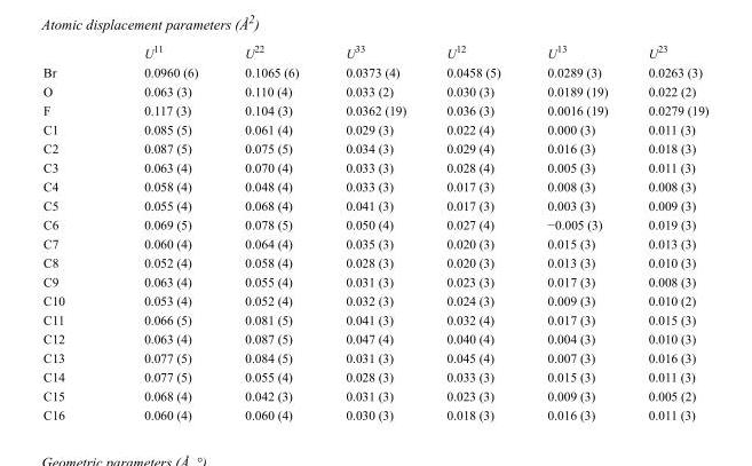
<table><thead><tr><td></td><td>U<sup>11</sup></td><td>U<sup>22</sup></td><td>U<sup>33</sup></td><td>U<sup>12</sup></td><td>U<sup>13</sup></td><td>U<sup>23</sup></td></tr></thead><tbody><tr><td>Br</td><td>0.0960 (6)</td><td>0.1065 (6)</td><td>0.0373 (4)</td><td>0.0458 (5)</td><td>0.0289 (3)</td><td>0.0263 (3)</td></tr><tr><td>O</td><td>0.063 (3)</td><td>0.110 (4)</td><td>0.033 (2)</td><td>0.030 (3)</td><td>0.0189 (19)</td><td>0.022 (2)</td></tr><tr><td>F</td><td>0.117 (3)</td><td>0.104 (3)</td><td>0.0362 (19)</td><td>0.036 (3)</td><td>0.0016 (19)</td><td>0.0279 (19)</td></tr><tr><td>C1</td><td>0.085 (5)</td><td>0.061 (4)</td><td>0.029 (3)</td><td>0.022 (4)</td><td>0.000 (3)</td><td>0.011 (3)</td></tr><tr><td>C2</td><td>0.087 (5)</td><td>0.075 (5)</td><td>0.034 (3)</td><td>0.029 (4)</td><td>0.016 (3)</td><td>0.018 (3)</td></tr><tr><td>C3</td><td>0.063 (4)</td><td>0.070 (4)</td><td>0.033 (3)</td><td>0.028 (4)</td><td>0.005 (3)</td><td>0.011 (3)</td></tr><tr><td>C4</td><td>0.058 (4)</td><td>0.048 (4)</td><td>0.033 (3)</td><td>0.017 (3)</td><td>0.008 (3)</td><td>0.008 (3)</td></tr><tr><td>C5</td><td>0.055 (4)</td><td>0.068 (4)</td><td>0.041 (3)</td><td>0.017 (3)</td><td>0.003 (3)</td><td>0.009 (3)</td></tr><tr><td>C6</td><td>0.069 (5)</td><td>0.078 (5)</td><td>0.050 (4)</td><td>0.027 (4)</td><td>−0.005 (3)</td><td>0.019 (3)</td></tr><tr><td>C7</td><td>0.060 (4)</td><td>0.064 (4)</td><td>0.035 (3)</td><td>0.020 (3)</td><td>0.015 (3)</td><td>0.013 (3)</td></tr><tr><td>C8</td><td>0.052 (4)</td><td>0.058 (4)</td><td>0.028 (3)</td><td>0.020 (3)</td><td>0.013 (3)</td><td>0.010 (3)</td></tr><tr><td>C9</td><td>0.063 (4)</td><td>0.055 (4)</td><td>0.031 (3)</td><td>0.023 (3)</td><td>0.017 (3)</td><td>0.008 (3)</td></tr><tr><td>C10</td><td>0.053 (4)</td><td>0.052 (4)</td><td>0.032 (3)</td><td>0.024 (3)</td><td>0.009 (3)</td><td>0.010 (2)</td></tr><tr><td>C11</td><td>0.066 (5)</td><td>0.081 (5)</td><td>0.041 (3)</td><td>0.032 (4)</td><td>0.017 (3)</td><td>0.015 (3)</td></tr><tr><td>C12</td><td>0.063 (4)</td><td>0.087 (5)</td><td>0.047 (4)</td><td>0.040 (4)</td><td>0.004 (3)</td><td>0.010 (3)</td></tr><tr><td>C13</td><td>0.077 (5)</td><td>0.084 (5)</td><td>0.031 (3)</td><td>0.045 (4)</td><td>0.007 (3)</td><td>0.016 (3)</td></tr><tr><td>C14</td><td>0.077 (5)</td><td>0.055 (4)</td><td>0.028 (3)</td><td>0.033 (3)</td><td>0.015 (3)</td><td>0.011 (3)</td></tr><tr><td>C15</td><td>0.068 (4)</td><td>0.042 (3)</td><td>0.031 (3)</td><td>0.023 (3)</td><td>0.009 (3)</td><td>0.005 (2)</td></tr><tr><td>C16</td><td>0.060 (4)</td><td>0.060 (4)</td><td>0.030 (3)</td><td>0.018 (3)</td><td>0.016 (3)</td><td>0.011 (3)</td></tr></tbody></table>